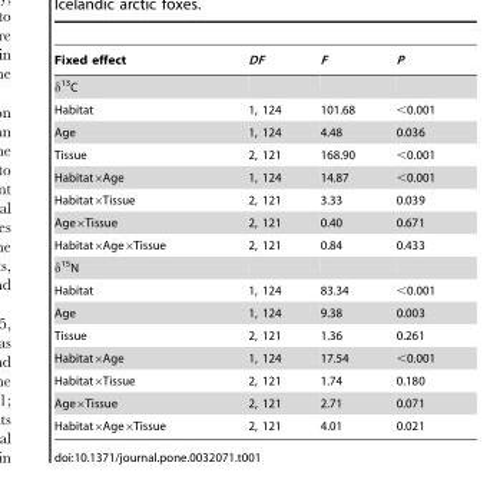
<table><thead><tr><td>Fixed effect</td><td>DF</td><td>F</td><td>P</td></tr></thead><tbody><tr><td colspan="4">δ<sup>13</sup>C</td></tr><tr><td>Habitat</td><td>1, 124</td><td>101.68</td><td>&lt;0.001</td></tr><tr><td>Age</td><td>1, 124</td><td>4.48</td><td>0.036</td></tr><tr><td>Tissue</td><td>2, 121</td><td>168.90</td><td>&lt;0.001</td></tr><tr><td>Habitat×Age</td><td>1, 124</td><td>14.87</td><td>&lt;0.001</td></tr><tr><td>Habitat×Tissue</td><td>2, 121</td><td>3.33</td><td>0.039</td></tr><tr><td>Age×Tissue</td><td>2, 121</td><td>0.40</td><td>0.671</td></tr><tr><td>Habitat×Age×Tissue</td><td>2, 121</td><td>0.84</td><td>0.433</td></tr><tr><td colspan="4">δ<sup>15</sup>N</td></tr><tr><td>Habitat</td><td>1, 124</td><td>83.34</td><td>&lt;0.001</td></tr><tr><td>Age</td><td>1, 124</td><td>9.38</td><td>0.003</td></tr><tr><td>Tissue</td><td>2, 121</td><td>1.36</td><td>0.261</td></tr><tr><td>Habitat×Age</td><td>1, 124</td><td>17.54</td><td>&lt;0.001</td></tr><tr><td>Habitat×Tissue</td><td>2, 121</td><td>1.74</td><td>0.180</td></tr><tr><td>Age×Tissue</td><td>2, 121</td><td>2.71</td><td>0.071</td></tr><tr><td>Habitat×Age×Tissue</td><td>2, 121</td><td>4.01</td><td>0.021</td></tr></tbody></table>